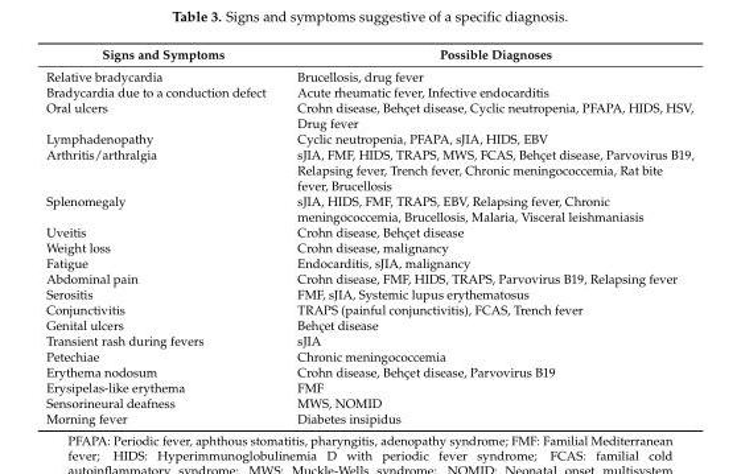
<table><thead><tr><td>Signs and Symptoms</td><td>Possible Diagnoses</td></tr></thead><tbody><tr><td>Relative bradycardia</td><td>Brucellosis, drug fever</td></tr><tr><td>Bradycardia due to a conduction defect</td><td>Acute rheumatic fever, Infective endocarditis</td></tr><tr><td>Oral ulcers</td><td>Crohn disease, Behçet disease, Cyclic neutropenia, PFAPA, HIDS, HSV, Drug fever</td></tr><tr><td>Lymphadenopathy</td><td>Cyclic neutropenia, PFAPA, sJIA, HIDS, EBV</td></tr><tr><td>Arthritis/arthralgia</td><td>sJIA, FMF, HIDS, TRAPS, MWS, FCAS, Behçet disease, Parvovirus B19, Relapsing fever, Trench fever, Chronic meningococcemia, Rat bite fever, Brucellosis</td></tr><tr><td>Splenomegaly</td><td>sJIA, HIDS, FMF, TRAPS, EBV, Relapsing fever, Chronic meningococcemia, Brucellosis, Malaria, Visceral leishmaniasis</td></tr><tr><td>Uveitis</td><td>Crohn disease, Behçet disease</td></tr><tr><td>Weight loss</td><td>Crohn disease, malignancy</td></tr><tr><td>Fatigue</td><td>Endocarditis, sJIA, malignancy</td></tr><tr><td>Abdominal pain</td><td>Crohn disease, FMF, HIDS, TRAPS, Parvovirus B19, Relapsing fever</td></tr><tr><td>Serositis</td><td>FMF, sJIA, Systemic lupus erythematosus</td></tr><tr><td>Conjunctivitis</td><td>TRAPS (painful conjunctivitis), FCAS, Trench fever</td></tr><tr><td>Genital ulcers</td><td>Behçet disease</td></tr><tr><td>Transient rash during fevers</td><td>sJIA</td></tr><tr><td>Petechiae</td><td>Chronic meningococcemia</td></tr><tr><td>Erythema nodosum</td><td>Crohn disease, Behçet disease, Parvovirus B19</td></tr><tr><td>Erysipelas-like erythema</td><td>FMF</td></tr><tr><td>Sensorineural deafness</td><td>MWS, NOMID</td></tr><tr><td>Morning fever</td><td>Diabetes insipidus</td></tr></tbody></table>